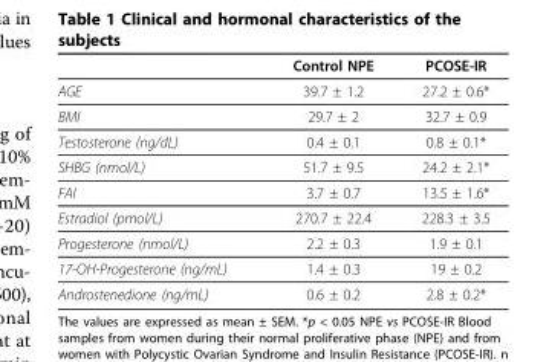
<table><thead><tr><td></td><td>Control NPE</td><td>PCOSE-IR</td></tr></thead><tbody><tr><td>AGE</td><td>39.7 ± 1.2</td><td>27.2 ± 0.6*</td></tr><tr><td>BMI</td><td>29.7 ± 2</td><td>32.7 ± 0.9</td></tr><tr><td>Testosterone (ng/dL)</td><td>0.4 ± 0.1</td><td>0.8 ± 0.1*</td></tr><tr><td>SHBG (nmol/L)</td><td>51.7 ± 9.5</td><td>24.2 ± 2.1*</td></tr><tr><td>FAI</td><td>3.7 ± 0.7</td><td>13.5 ± 1.6*</td></tr><tr><td>Estradiol (pmol/L)</td><td>270.7 ± 22.4</td><td>228.3 ± 3.5</td></tr><tr><td>Progesterone (nmol/L)</td><td>2.2 ± 0.3</td><td>1.9 ± 0.1</td></tr><tr><td>17-OH-Progesterone (ng/mL)</td><td>1.4 ± 0.3</td><td>19 ± 0.2</td></tr><tr><td>Androstenedione (ng/mL)</td><td>0.6 ± 0.2</td><td>2.8 ± 0.2*</td></tr></tbody></table>